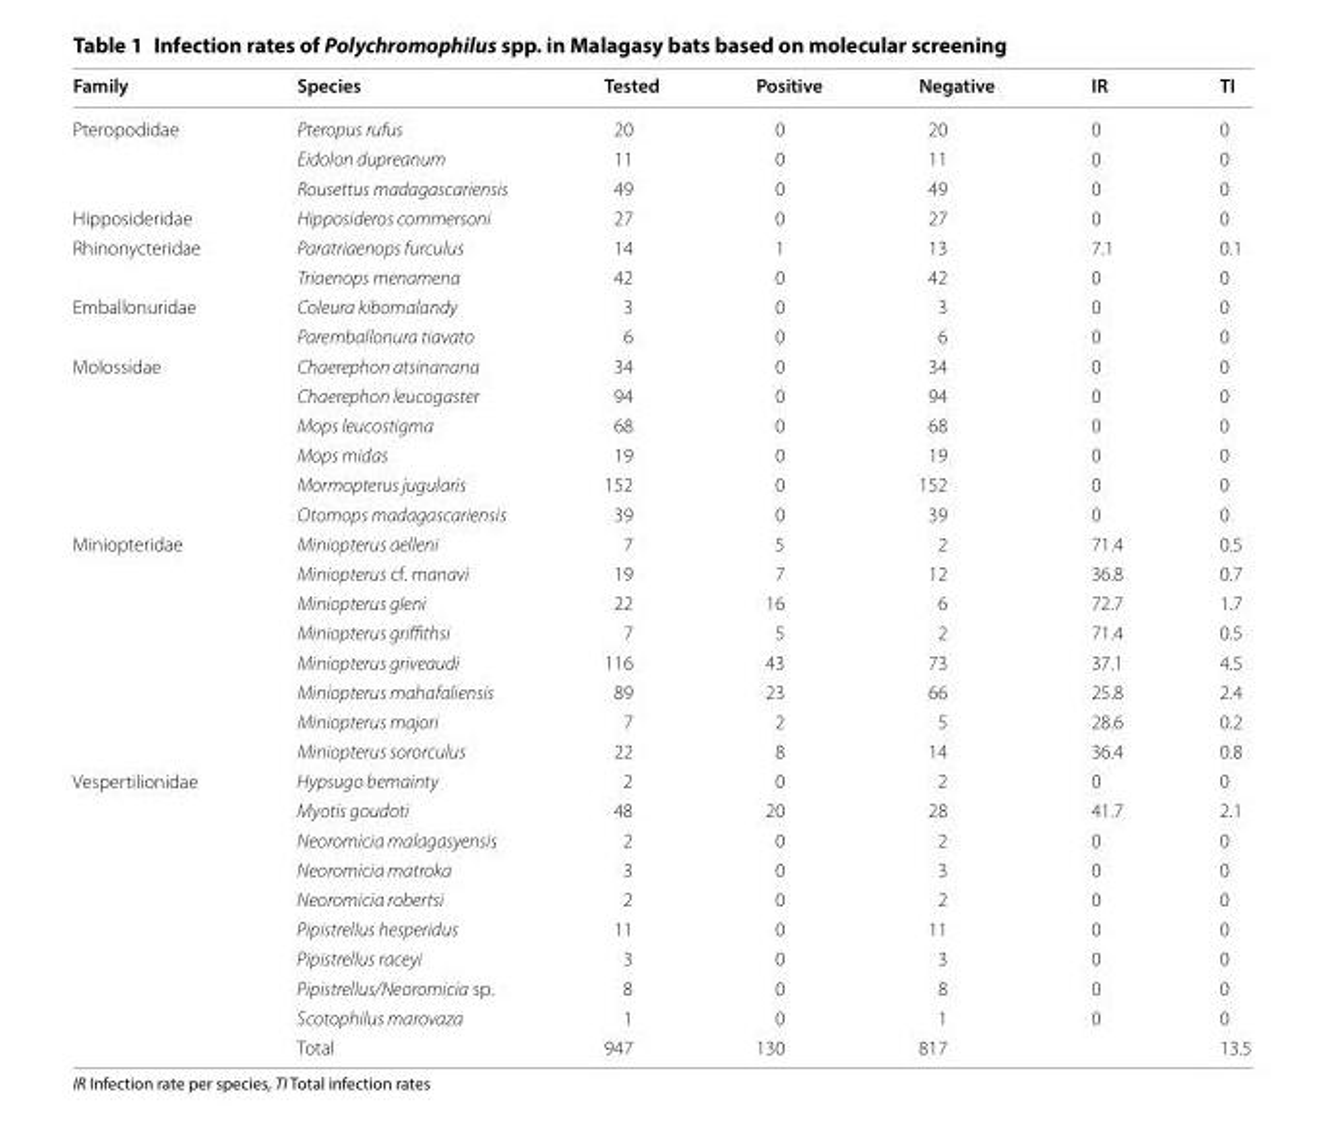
<table><thead><tr><td>Family</td><td>Species</td><td>Tested</td><td>Positive</td><td>Negative</td><td>IR</td><td>TI</td></tr></thead><tbody><tr><td rowspan="3">Pteropodidae</td><td>Pteropus rufus</td><td>20</td><td>0</td><td>20</td><td>0</td><td>0</td></tr><tr><td>Eidolon dupreanum</td><td>11</td><td>0</td><td>11</td><td>0</td><td>0</td></tr><tr><td>Rousettus madagascariensis</td><td>49</td><td>0</td><td>49</td><td>0</td><td>0</td></tr><tr><td>Hipposideridae</td><td>Hipposideros commersoni</td><td>27</td><td>0</td><td>27</td><td>0</td><td>0</td></tr><tr><td rowspan="2">Rhinonycteridae</td><td>Paratriaenops furculus</td><td>14</td><td>1</td><td>13</td><td>7.1</td><td>0.1</td></tr><tr><td>Triaenops menamena</td><td>42</td><td>0</td><td>42</td><td>0</td><td>0</td></tr><tr><td rowspan="2">Emballonuridae</td><td>Coleura kibomalandy</td><td>3</td><td>0</td><td>3</td><td>0</td><td>0</td></tr><tr><td>Paremballonura tiavato</td><td>6</td><td>0</td><td>6</td><td>0</td><td>0</td></tr><tr><td rowspan="6">Molossidae</td><td>Chaerephon atsinanana</td><td>34</td><td>0</td><td>34</td><td>0</td><td>0</td></tr><tr><td>Chaerephon leucogaster</td><td>94</td><td>0</td><td>94</td><td>0</td><td>0</td></tr><tr><td>Mops leucostigma</td><td>68</td><td>0</td><td>68</td><td>0</td><td>0</td></tr><tr><td>Mops midas</td><td>19</td><td>0</td><td>19</td><td>0</td><td>0</td></tr><tr><td>Mormopterus jugularis</td><td>152</td><td>0</td><td>152</td><td>0</td><td>0</td></tr><tr><td>Otomops madagascariensis</td><td>39</td><td>0</td><td>39</td><td>0</td><td>0</td></tr><tr><td rowspan="8">Miniopteridae</td><td>Miniopterus aelleni</td><td>7</td><td>5</td><td>2</td><td>71.4</td><td>0.5</td></tr><tr><td>Miniopterus cf. manavi</td><td>19</td><td>7</td><td>12</td><td>36.8</td><td>0.7</td></tr><tr><td>Miniopterus gleni</td><td>22</td><td>16</td><td>6</td><td>72.7</td><td>1.7</td></tr><tr><td>Miniopterus griffithsi</td><td>7</td><td>5</td><td>2</td><td>71.4</td><td>0.5</td></tr><tr><td>Miniopterus griveaudi</td><td>116</td><td>43</td><td>73</td><td>37.1</td><td>4.5</td></tr><tr><td>Miniopterus mahafaliensis</td><td>89</td><td>23</td><td>66</td><td>25.8</td><td>2.4</td></tr><tr><td>Miniopterus majori</td><td>7</td><td>2</td><td>5</td><td>28.6</td><td>0.2</td></tr><tr><td>Miniopterus sororculus</td><td>22</td><td>8</td><td>14</td><td>36.4</td><td>0.8</td></tr><tr><td rowspan="10">Vespertilionidae</td><td>Hypsugo bemainty</td><td>2</td><td>0</td><td>2</td><td>0</td><td>0</td></tr><tr><td>Myotis goudoti</td><td>48</td><td>20</td><td>28</td><td>41.7</td><td>2.1</td></tr><tr><td>Neoromicia malagasyensis</td><td>2</td><td>0</td><td>2</td><td>0</td><td>0</td></tr><tr><td>Neoromicia matroka</td><td>3</td><td>0</td><td>3</td><td>0</td><td>0</td></tr><tr><td>Neoromicia robertsi</td><td>2</td><td>0</td><td>2</td><td>0</td><td>0</td></tr><tr><td>Pipistrellus hesperidus</td><td>11</td><td>0</td><td>11</td><td>0</td><td>0</td></tr><tr><td>Pipistrellus raceyi</td><td>3</td><td>0</td><td>3</td><td>0</td><td>0</td></tr><tr><td>Pipistrellus/Neoromicia sp.</td><td>8</td><td>0</td><td>8</td><td>0</td><td>0</td></tr><tr><td>Scotophilus marovaza</td><td>1</td><td>0</td><td>1</td><td>0</td><td>0</td></tr><tr><td>Total</td><td>947</td><td>130</td><td>817</td><td></td><td>13.5</td></tr></tbody></table>